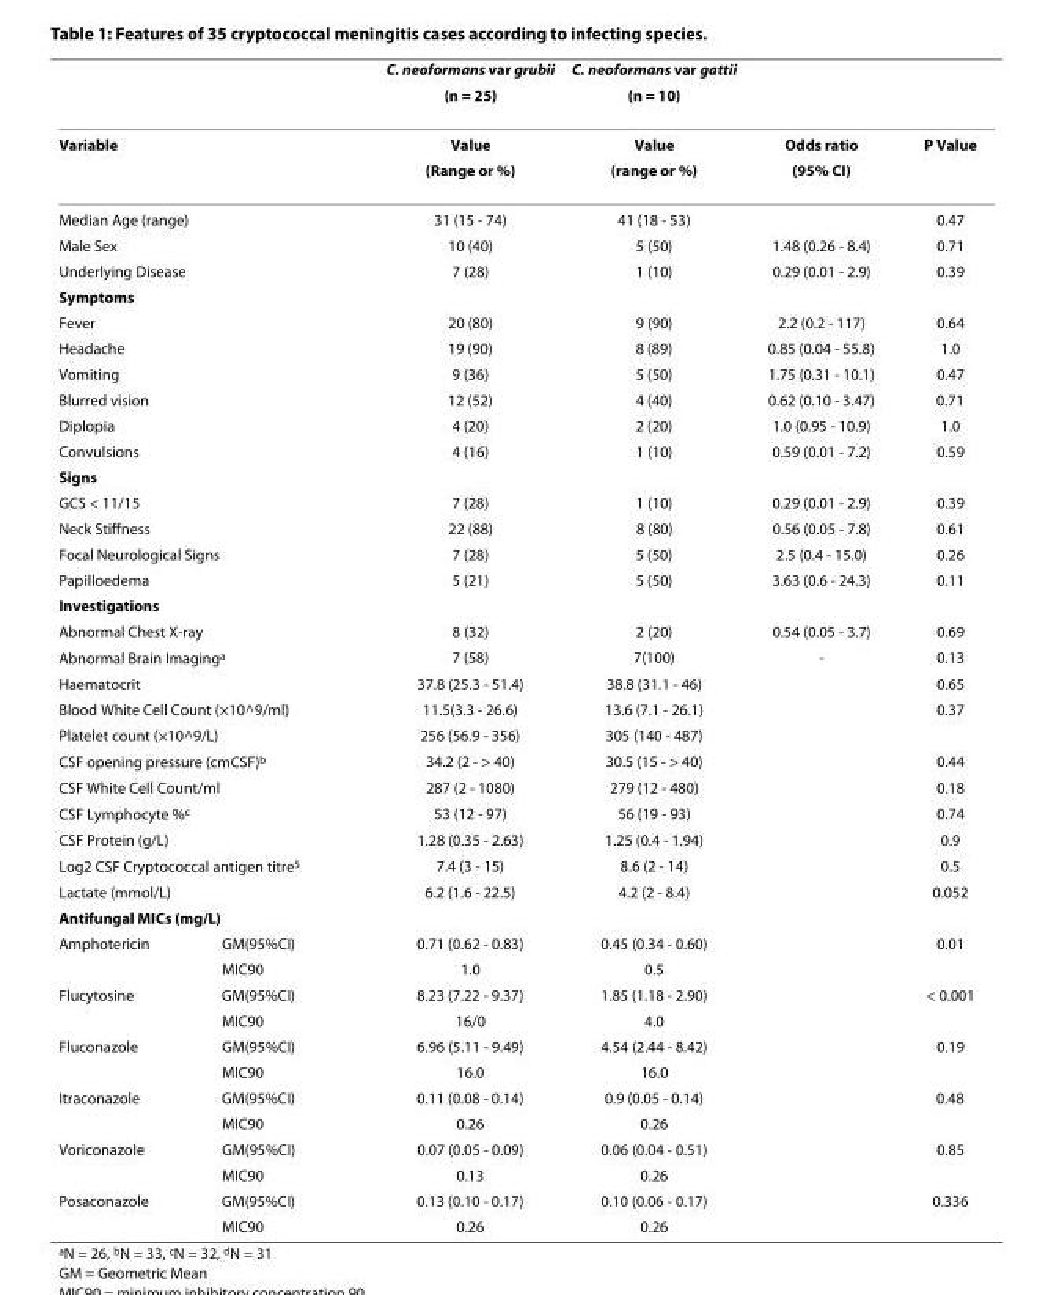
<table><thead><tr><td rowspan="2"></td><td rowspan="2"></td><td rowspan="2">C. neoformans var grubii (n = 25)</td><td rowspan="2">C. neoformans var gattii (n = 10)</td><td rowspan="2"></td><td rowspan="2"></td></tr><tr></tr></thead><tbody><tr><td colspan="2">Variable</td><td>Value</td><td>Value</td><td>Odds ratio</td><td>P Value</td></tr><tr><td></td><td></td><td>(Range or %)</td><td>(range or %)</td><td>(95% CI)</td><td></td></tr><tr><td colspan="2">Median Age (range)</td><td>31 (15 - 74)</td><td>41 (18 - 53)</td><td></td><td>0.47</td></tr><tr><td colspan="2">Male Sex</td><td>10 (40)</td><td>5 (50)</td><td>1.48 (0.26 - 8.4)</td><td>0.71</td></tr><tr><td colspan="2">Underlying Disease</td><td>7 (28)</td><td>1 (10)</td><td>0.29 (0.01 - 2.9)</td><td>0.39</td></tr><tr><td colspan="6">Symptoms</td></tr><tr><td colspan="2">Fever</td><td>20 (80)</td><td>9 (90)</td><td>2.2 (0.2 - 117)</td><td>0.64</td></tr><tr><td colspan="2">Headache</td><td>19 (90)</td><td>8 (89)</td><td>0.85 (0.04 - 55.8)</td><td>1.0</td></tr><tr><td colspan="2">Vomiting</td><td>9 (36)</td><td>5 (50)</td><td>1.75 (0.31 - 10.1)</td><td>0.47</td></tr><tr><td colspan="2">Blurred vision</td><td>12 (52)</td><td>4 (40)</td><td>0.62 (0.10 - 3.47)</td><td>0.71</td></tr><tr><td colspan="2">Diplopia</td><td>4 (20)</td><td>2 (20)</td><td>1.0 (0.95 - 10.9)</td><td>1.0</td></tr><tr><td colspan="2">Convulsions</td><td>4 (16)</td><td>1 (10)</td><td>0.59 (0.01 - 7.2)</td><td>0.59</td></tr><tr><td colspan="6">Signs</td></tr><tr><td colspan="2">GCS &lt; 11/15</td><td>7 (28)</td><td>1 (10)</td><td>0.29 (0.01 - 2.9)</td><td>0.39</td></tr><tr><td colspan="2">Neck Stiffness</td><td>22 (88)</td><td>8 (80)</td><td>0.56 (0.05 - 7.8)</td><td>0.61</td></tr><tr><td colspan="2">Focal Neurological Signs</td><td>7 (28)</td><td>5 (50)</td><td>2.5 (0.4 - 15.0)</td><td>0.26</td></tr><tr><td colspan="2">Papilloedema</td><td>5 (21)</td><td>5 (50)</td><td>3.63 (0.6 - 24.3)</td><td>0.11</td></tr><tr><td colspan="6">Investigations</td></tr><tr><td colspan="2">Abnormal Chest X-ray</td><td>8 (32)</td><td>2 (20)</td><td>0.54 (0.05 - 3.7)</td><td>0.69</td></tr><tr><td colspan="2">Abnormal Brain Imaging<sup>a</sup></td><td>7 (58)</td><td>7(100)</td><td>-</td><td>0.13</td></tr><tr><td colspan="2">Haematocrit</td><td>37.8 (25.3 - 51.4)</td><td>38.8 (31.1 - 46)</td><td></td><td>0.65</td></tr><tr><td colspan="2">Blood White Cell Count (×10^9/ml)</td><td>11.5(3.3 - 26.6)</td><td>13.6 (7.1 - 26.1)</td><td></td><td>0.37</td></tr><tr><td colspan="2">Platelet count (×10^9/L)</td><td>256 (56.9 - 356)</td><td>305 (140 - 487)</td><td></td><td></td></tr><tr><td colspan="2">CSF opening pressure (cmCSF)<sup>b</sup></td><td>34.2 (2 - &gt; 40)</td><td>30.5 (15 - &gt; 40)</td><td></td><td>0.44</td></tr><tr><td colspan="2">CSF White Cell Count/ml</td><td>287 (2 - 1080)</td><td>279 (12 - 480)</td><td></td><td>0.18</td></tr><tr><td colspan="2">CSF Lymphocyte %<sup>c</sup></td><td>53 (12 - 97)</td><td>56 (19 - 93)</td><td></td><td>0.74</td></tr><tr><td colspan="2">CSF Protein (g/L)</td><td>1.28 (0.35 - 2.63)</td><td>1.25 (0.4 - 1.94)</td><td></td><td>0.9</td></tr><tr><td colspan="2">Log2 CSF Cryptococcal antigen titre<sup>5</sup></td><td>7.4 (3 - 15)</td><td>8.6 (2 - 14)</td><td></td><td>0.5</td></tr><tr><td colspan="2">Lactate (mmol/L)</td><td>6.2 (1.6 - 22.5)</td><td>4.2 (2 - 8.4)</td><td></td><td>0.052</td></tr><tr><td colspan="6">Antifungal MICs (mg/L)</td></tr><tr><td rowspan="2">Amphotericin</td><td>GM(95%CI)</td><td>0.71 (0.62 - 0.83)</td><td>0.45 (0.34 - 0.60)</td><td></td><td>0.01</td></tr><tr><td>MIC90</td><td>1.0</td><td>0.5</td><td></td><td></td></tr><tr><td rowspan="2">Flucytosine</td><td>GM(95%CI)</td><td>8.23 (7.22 - 9.37)</td><td>1.85 (1.18 - 2.90)</td><td></td><td>&lt; 0.001</td></tr><tr><td>MIC90</td><td>16/0</td><td>4.0</td><td></td><td></td></tr><tr><td rowspan="2">Fluconazole</td><td>GM(95%CI)</td><td>6.96 (5.11 - 9.49)</td><td>4.54 (2.44 - 8.42)</td><td></td><td>0.19</td></tr><tr><td>MIC90</td><td>16.0</td><td>16.0</td><td></td><td></td></tr><tr><td rowspan="2">Itraconazole</td><td>GM(95%CI)</td><td>0.11 (0.08 - 0.14)</td><td>0.9 (0.05 - 0.14)</td><td></td><td>0.48</td></tr><tr><td>MIC90</td><td>0.26</td><td>0.26</td><td></td><td></td></tr><tr><td rowspan="2">Voriconazole</td><td>GM(95%CI)</td><td>0.07 (0.05 - 0.09)</td><td>0.06 (0.04 - 0.51)</td><td></td><td>0.85</td></tr><tr><td>MIC90</td><td>0.13</td><td>0.26</td><td></td><td></td></tr><tr><td rowspan="2">Posaconazole</td><td>GM(95%CI)</td><td>0.13 (0.10 - 0.17)</td><td>0.10 (0.06 - 0.17)</td><td></td><td>0.336</td></tr><tr><td>MIC90</td><td>0.26</td><td>0.26</td><td></td><td></td></tr></tbody></table>